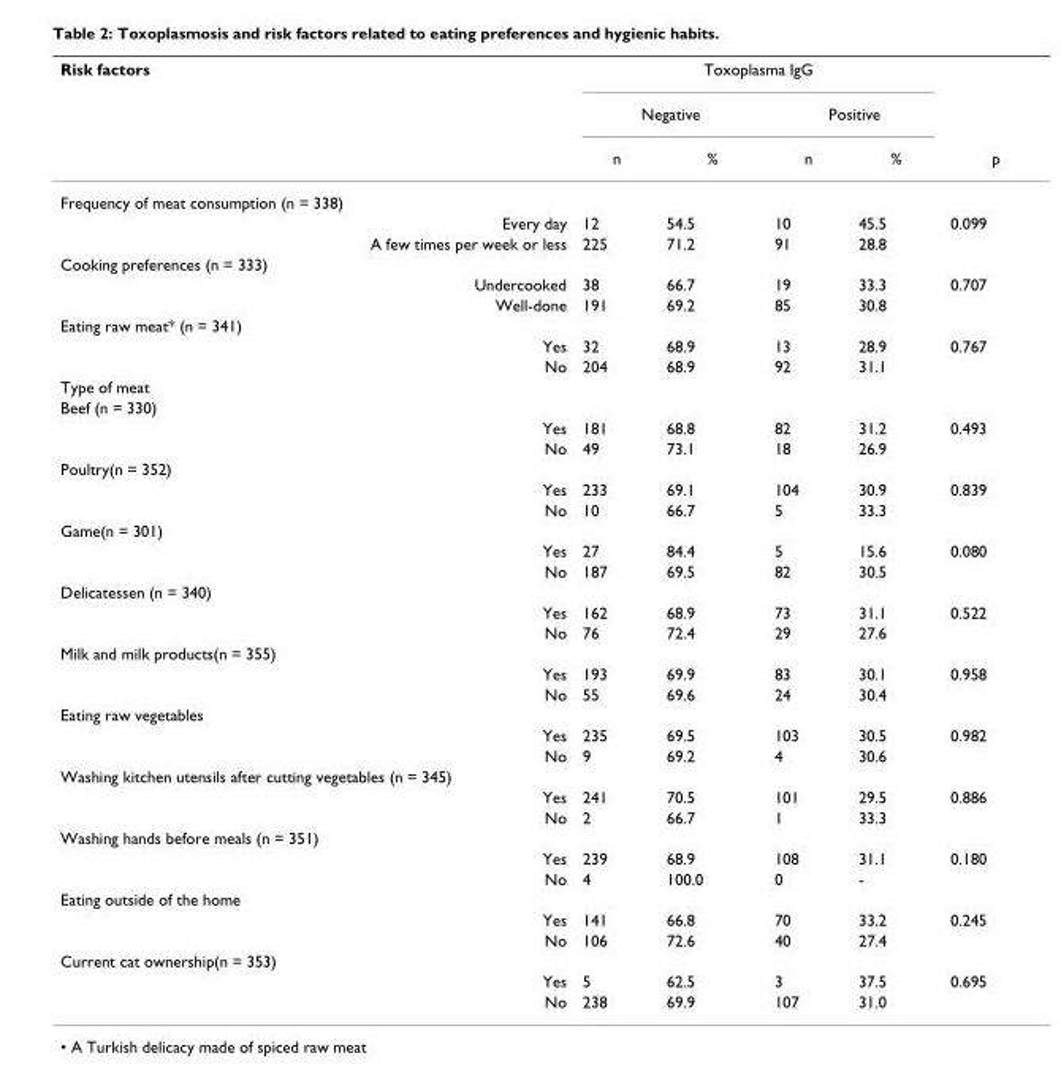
<table><thead><tr><td rowspan="3">Risk factors</td><td colspan="4">Toxoplasma IgG</td><td rowspan="3">p</td></tr><tr><td colspan="2">Negative</td><td colspan="2">Positive</td></tr><tr><td>n</td><td>%</td><td>n</td><td>%</td></tr></thead><tbody><tr><td colspan="6">Frequency of meat consumption (n = 338)</td></tr><tr><td>Every day</td><td>12</td><td>54.5</td><td>10</td><td>45.5</td><td>0.099</td></tr><tr><td>A few times per week or less</td><td>225</td><td>71.2</td><td>91</td><td>28.8</td><td></td></tr><tr><td colspan="6">Cooking preferences (n = 333)</td></tr><tr><td>Undercooked</td><td>38</td><td>66.7</td><td>19</td><td>33.3</td><td>0.707</td></tr><tr><td>Well-done</td><td>191</td><td>69.2</td><td>85</td><td>30.8</td><td></td></tr><tr><td colspan="6">Eating raw meat* (n = 341)</td></tr><tr><td>Yes</td><td>32</td><td>68.9</td><td>13</td><td>28.9</td><td>0.767</td></tr><tr><td>No</td><td>204</td><td>68.9</td><td>92</td><td>31.1</td><td></td></tr><tr><td colspan="6">Type of meat</td></tr><tr><td colspan="6">Beef (n = 330)</td></tr><tr><td>Yes</td><td>181</td><td>68.8</td><td>82</td><td>31.2</td><td>0.493</td></tr><tr><td>No</td><td>49</td><td>73.1</td><td>18</td><td>26.9</td><td></td></tr><tr><td colspan="6">Poultry(n = 352)</td></tr><tr><td>Yes</td><td>233</td><td>69.1</td><td>104</td><td>30.9</td><td>0.839</td></tr><tr><td>No</td><td>10</td><td>66.7</td><td>5</td><td>33.3</td><td></td></tr><tr><td colspan="6">Game(n = 301)</td></tr><tr><td>Yes</td><td>27</td><td>84.4</td><td>5</td><td>15.6</td><td>0.080</td></tr><tr><td>No</td><td>187</td><td>69.5</td><td>82</td><td>30.5</td><td></td></tr><tr><td colspan="6">Delicatessen (n = 340)</td></tr><tr><td>Yes</td><td>162</td><td>68.9</td><td>73</td><td>31.1</td><td>0.522</td></tr><tr><td>No</td><td>76</td><td>72.4</td><td>29</td><td>27.6</td><td></td></tr><tr><td colspan="6">Milk and milk products(n = 355)</td></tr><tr><td>Yes</td><td>193</td><td>69.9</td><td>83</td><td>30.1</td><td>0.958</td></tr><tr><td>No</td><td>55</td><td>69.6</td><td>24</td><td>30.4</td><td></td></tr><tr><td colspan="6">Eating raw vegetables</td></tr><tr><td>Yes</td><td>235</td><td>69.5</td><td>103</td><td>30.5</td><td>0.982</td></tr><tr><td>No</td><td>9</td><td>69.2</td><td>4</td><td>30.6</td><td></td></tr><tr><td colspan="6">Washing kitchen utensils after cutting vegetables (n = 345)</td></tr><tr><td>Yes</td><td>241</td><td>70.5</td><td>101</td><td>29.5</td><td>0.886</td></tr><tr><td>No</td><td>2</td><td>66.7</td><td>1</td><td>33.3</td><td></td></tr><tr><td colspan="6">Washing hands before meals (n = 351)</td></tr><tr><td>Yes</td><td>239</td><td>68.9</td><td>108</td><td>31.1</td><td>0.180</td></tr><tr><td>No</td><td>4</td><td>100.0</td><td>0</td><td>-</td><td></td></tr><tr><td colspan="6">Eating outside of the home</td></tr><tr><td>Yes</td><td>141</td><td>66.8</td><td>70</td><td>33.2</td><td>0.245</td></tr><tr><td>No</td><td>106</td><td>72.6</td><td>40</td><td>27.4</td><td></td></tr><tr><td colspan="6">Current cat ownership(n = 353)</td></tr><tr><td>Yes</td><td>5</td><td>62.5</td><td>3</td><td>37.5</td><td>0.695</td></tr><tr><td>No</td><td>238</td><td>69.9</td><td>107</td><td>31.0</td><td></td></tr></tbody></table>